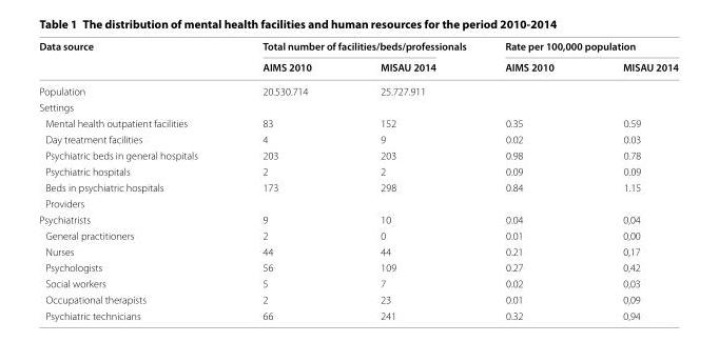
<table><thead><tr><td rowspan="2">Data source</td><td colspan="2">Total number of facilities/beds/professionals</td><td colspan="2">Rate per 100,000 population</td></tr><tr><td>AIMS 2010</td><td>MISAU 2014</td><td>AIMS 2010</td><td>MISAU 2014</td></tr></thead><tbody><tr><td>Population</td><td>20.530.714</td><td>25.727.911</td><td></td><td></td></tr><tr><td colspan="5">Settings</td></tr><tr><td>Mental health outpatient facilities</td><td>83</td><td>152</td><td>0.35</td><td>0.59</td></tr><tr><td>Day treatment facilities</td><td>4</td><td>9</td><td>0.02</td><td>0.03</td></tr><tr><td>Psychiatric beds in general hospitals</td><td>203</td><td>203</td><td>0.98</td><td>0.78</td></tr><tr><td>Psychiatric hospitals</td><td>2</td><td>2</td><td>0.09</td><td>0.09</td></tr><tr><td>Beds in psychiatric hospitals</td><td>173</td><td>298</td><td>0.84</td><td>1.15</td></tr><tr><td colspan="5">Providers</td></tr><tr><td>Psychiatrists</td><td>9</td><td>10</td><td>0.04</td><td>0,04</td></tr><tr><td>General practitioners</td><td>2</td><td>0</td><td>0.01</td><td>0,00</td></tr><tr><td>Nurses</td><td>44</td><td>44</td><td>0.21</td><td>0,17</td></tr><tr><td>Psychologists</td><td>56</td><td>109</td><td>0.27</td><td>0,42</td></tr><tr><td>Social workers</td><td>5</td><td>7</td><td>0.02</td><td>0,03</td></tr><tr><td>Occupational therapists</td><td>2</td><td>23</td><td>0.01</td><td>0,09</td></tr><tr><td>Psychiatric technicians</td><td>66</td><td>241</td><td>0.32</td><td>0,94</td></tr></tbody></table>